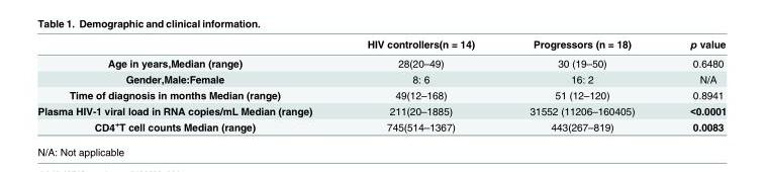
<table><thead><tr><td></td><td>HIV controllers(n = 14)</td><td>Progressors (n = 18)</td><td>p value</td></tr></thead><tbody><tr><td>Age in years,Median (range)</td><td>28(20–49)</td><td>30 (19–50)</td><td>0.6480</td></tr><tr><td>Gender,Male:Female</td><td>8: 6</td><td>16: 2</td><td>N/A</td></tr><tr><td>Time of diagnosis in months Median (range)</td><td>49(12–168)</td><td>51 (12–120)</td><td>0.8941</td></tr><tr><td>Plasma HIV-1 viral load in RNA copies/mL Median (range)</td><td>211(20–1885)</td><td>31552 (11206–160405)</td><td>&lt;0.0001</td></tr><tr><td>CD4<sup>+</sup>T cell counts Median (range)</td><td>745(514–1367)</td><td>443(267–819)</td><td>0.0083</td></tr></tbody></table>